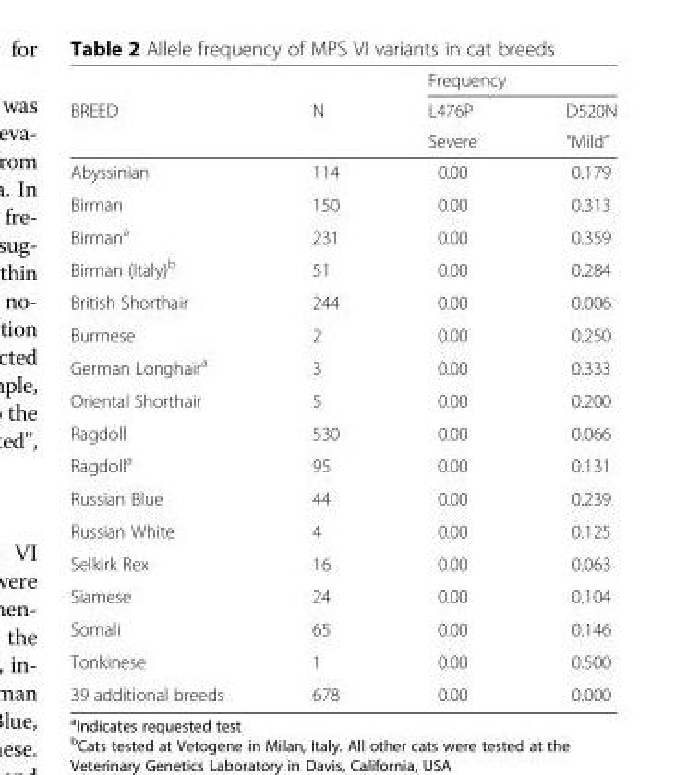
<table><thead><tr><td rowspan="3">BREED</td><td rowspan="3">N</td><td colspan="2">Frequency</td></tr><tr><td rowspan="2">L476P Severe</td><td rowspan="2">D520N “Mild”</td></tr><tr></tr></thead><tbody><tr><td>Abyssinian</td><td>114</td><td>0.00</td><td>0.179</td></tr><tr><td>Birman</td><td>150</td><td>0.00</td><td>0.313</td></tr><tr><td>Birman<sup>a</sup></td><td>231</td><td>0.00</td><td>0.359</td></tr><tr><td>Birman (Italy)<sup>b</sup></td><td>51</td><td>0.00</td><td>0.284</td></tr><tr><td>British Shorthair</td><td>244</td><td>0.00</td><td>0.006</td></tr><tr><td>Burmese</td><td>2</td><td>0.00</td><td>0.250</td></tr><tr><td>German Longhair<sup>a</sup></td><td>3</td><td>0.00</td><td>0.333</td></tr><tr><td>Oriental Shorthair</td><td>5</td><td>0.00</td><td>0.200</td></tr><tr><td>Ragdoll</td><td>530</td><td>0.00</td><td>0.066</td></tr><tr><td>Ragdoll<sup>a</sup></td><td>95</td><td>0.00</td><td>0.131</td></tr><tr><td>Russian Blue</td><td>44</td><td>0.00</td><td>0.239</td></tr><tr><td>Russian White</td><td>4</td><td>0.00</td><td>0.125</td></tr><tr><td>Selkirk Rex</td><td>16</td><td>0.00</td><td>0.063</td></tr><tr><td>Siamese</td><td>24</td><td>0.00</td><td>0.104</td></tr><tr><td>Somali</td><td>65</td><td>0.00</td><td>0.146</td></tr><tr><td>Tonkinese</td><td>1</td><td>0.00</td><td>0.500</td></tr><tr><td>39 additional breeds</td><td>678</td><td>0.00</td><td>0.000</td></tr></tbody></table>